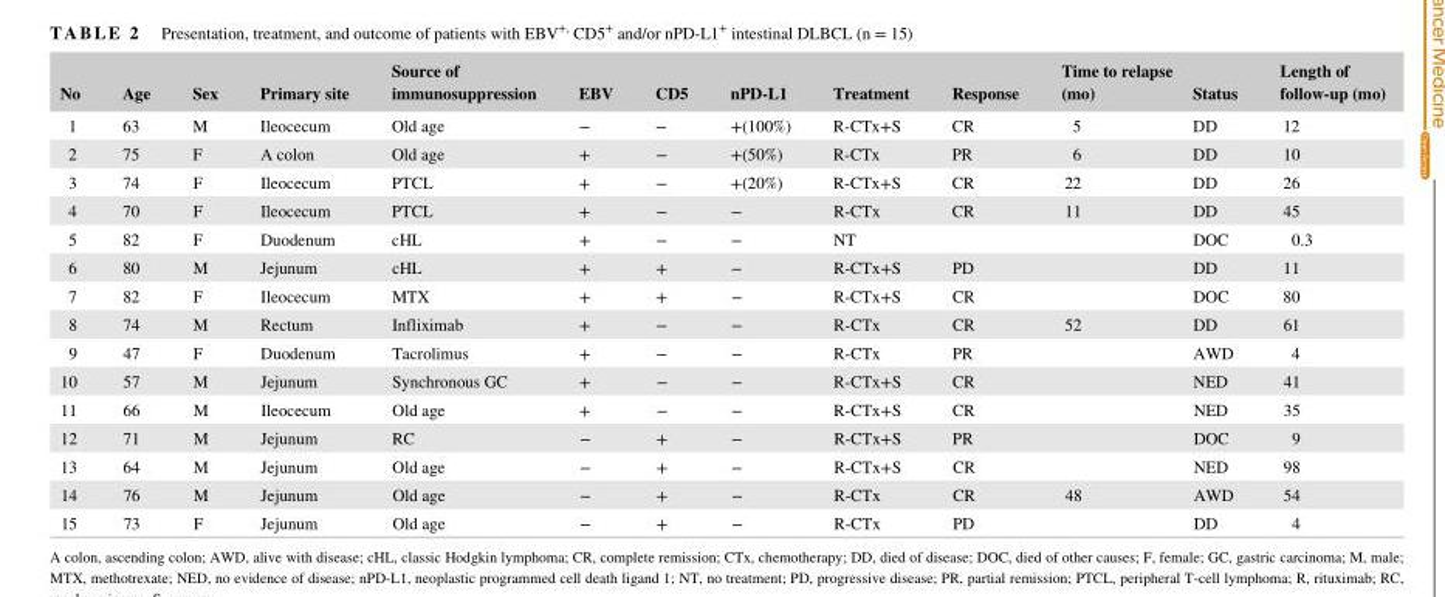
<table><thead><tr><td>No</td><td>Age</td><td>Sex</td><td>Primary site</td><td>Source of immunosuppression</td><td>EBV</td><td>CD5</td><td>nPD‐L1</td><td>Treatment</td><td>Response</td><td>Time to relapse (mo)</td><td>Status</td><td>Length of follow‐up (mo)</td></tr></thead><tbody><tr><td>1</td><td>63</td><td>M</td><td>Ileocecum</td><td>Old age</td><td>−</td><td>−</td><td>+(100%)</td><td>R‐CTx+S</td><td>CR</td><td>5</td><td>DD</td><td>12</td></tr><tr><td>2</td><td>75</td><td>F</td><td>A colon</td><td>Old age</td><td>+</td><td>−</td><td>+(50%)</td><td>R‐CTx</td><td>PR</td><td>6</td><td>DD</td><td>10</td></tr><tr><td>3</td><td>74</td><td>F</td><td>Ileocecum</td><td>PTCL</td><td>+</td><td>−</td><td>+(20%)</td><td>R‐CTx+S</td><td>CR</td><td>22</td><td>DD</td><td>26</td></tr><tr><td>4</td><td>70</td><td>F</td><td>Ileocecum</td><td>PTCL</td><td>+</td><td>−</td><td>−</td><td>R‐CTx</td><td>CR</td><td>11</td><td>DD</td><td>45</td></tr><tr><td>5</td><td>82</td><td>F</td><td>Duodenum</td><td>cHL</td><td>+</td><td>−</td><td>−</td><td>NT</td><td></td><td></td><td>DOC</td><td>0.3</td></tr><tr><td>6</td><td>80</td><td>M</td><td>Jejunum</td><td>cHL</td><td>+</td><td>+</td><td>−</td><td>R‐CTx+S</td><td>PD</td><td></td><td>DD</td><td>11</td></tr><tr><td>7</td><td>82</td><td>F</td><td>Ileocecum</td><td>MTX</td><td>+</td><td>+</td><td>−</td><td>R‐CTx+S</td><td>CR</td><td></td><td>DOC</td><td>80</td></tr><tr><td>8</td><td>74</td><td>M</td><td>Rectum</td><td>Infliximab</td><td>+</td><td>−</td><td>−</td><td>R‐CTx</td><td>CR</td><td>52</td><td>DD</td><td>61</td></tr><tr><td>9</td><td>47</td><td>F</td><td>Duodenum</td><td>Tacrolimus</td><td>+</td><td>−</td><td>−</td><td>R‐CTx</td><td>PR</td><td></td><td>AWD</td><td>4</td></tr><tr><td>10</td><td>57</td><td>M</td><td>Jejunum</td><td>Synchronous GC</td><td>+</td><td>−</td><td>−</td><td>R‐CTx+S</td><td>CR</td><td></td><td>NED</td><td>41</td></tr><tr><td>11</td><td>66</td><td>M</td><td>Ileocecum</td><td>Old age</td><td>+</td><td>−</td><td>−</td><td>R‐CTx+S</td><td>CR</td><td></td><td>NED</td><td>35</td></tr><tr><td>12</td><td>71</td><td>M</td><td>Jejunum</td><td>RC</td><td>−</td><td>+</td><td>−</td><td>R‐CTx+S</td><td>PR</td><td></td><td>DOC</td><td>9</td></tr><tr><td>13</td><td>64</td><td>M</td><td>Jejunum</td><td>Old age</td><td>−</td><td>+</td><td>−</td><td>R‐CTx+S</td><td>CR</td><td></td><td>NED</td><td>98</td></tr><tr><td>14</td><td>76</td><td>M</td><td>Jejunum</td><td>Old age</td><td>−</td><td>+</td><td>−</td><td>R‐CTx</td><td>CR</td><td>48</td><td>AWD</td><td>54</td></tr><tr><td>15</td><td>73</td><td>F</td><td>Jejunum</td><td>Old age</td><td>−</td><td>+</td><td>−</td><td>R‐CTx</td><td>PD</td><td></td><td>DD</td><td>4</td></tr></tbody></table>